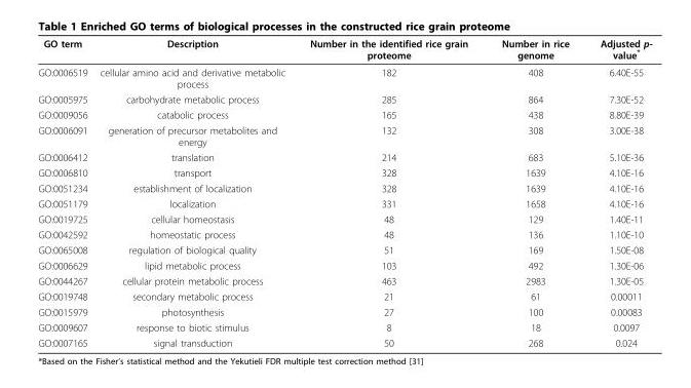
<table><thead><tr><td>GO term</td><td>Description</td><td>Number in the identified rice grain proteome</td><td>Number in rice genome</td><td>Adjusted p- value*</td></tr></thead><tbody><tr><td>GO:0006519</td><td>cellular amino acid and derivative metabolic process</td><td>182</td><td>408</td><td>6.40E-55</td></tr><tr><td>GO:0005975</td><td>carbohydrate metabolic process</td><td>285</td><td>864</td><td>7.30E-52</td></tr><tr><td>GO:0009056</td><td>catabolic process</td><td>165</td><td>438</td><td>8.80E-39</td></tr><tr><td>GO:0006091</td><td>generation of precursor metabolites and energy</td><td>132</td><td>308</td><td>3.00E-38</td></tr><tr><td>GO:0006412</td><td>translation</td><td>214</td><td>683</td><td>5.10E-36</td></tr><tr><td>GO:0006810</td><td>transport</td><td>328</td><td>1639</td><td>4.10E-16</td></tr><tr><td>GO:0051234</td><td>establishment of localization</td><td>328</td><td>1639</td><td>4.10E-16</td></tr><tr><td>GO:0051179</td><td>localization</td><td>331</td><td>1658</td><td>4.10E-16</td></tr><tr><td>GO:0019725</td><td>cellular homeostasis</td><td>48</td><td>129</td><td>1.40E-11</td></tr><tr><td>GO:0042592</td><td>homeostatic process</td><td>48</td><td>136</td><td>1.10E-10</td></tr><tr><td>GO:0065008</td><td>regulation of biological quality</td><td>51</td><td>169</td><td>1.50E-08</td></tr><tr><td>GO:0006629</td><td>lipid metabolic process</td><td>103</td><td>492</td><td>1.30E-06</td></tr><tr><td>GO:0044267</td><td>cellular protein metabolic process</td><td>463</td><td>2983</td><td>1.30E-05</td></tr><tr><td>GO:0019748</td><td>secondary metabolic process</td><td>21</td><td>61</td><td>0.00011</td></tr><tr><td>GO:0015979</td><td>photosynthesis</td><td>27</td><td>100</td><td>0.00083</td></tr><tr><td>GO:0009607</td><td>response to biotic stimulus</td><td>8</td><td>18</td><td>0.0097</td></tr><tr><td>GO:0007165</td><td>signal transduction</td><td>50</td><td>268</td><td>0.024</td></tr></tbody></table>